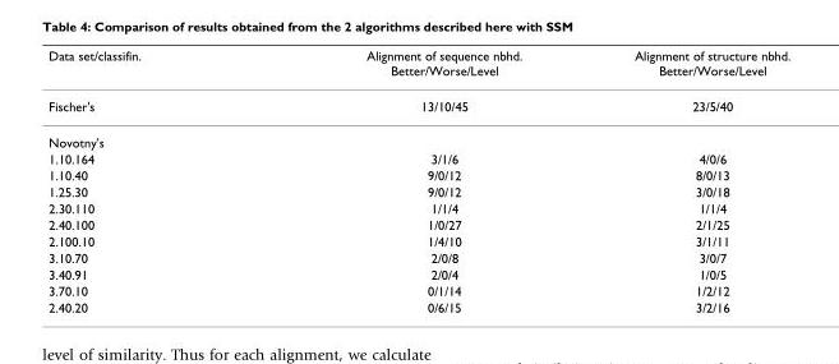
<table><thead><tr><td>Data set/classifin.</td><td>Alignment of sequence nbhd. Better/Worse/Level</td><td>Alignment of structure nbhd. Better/Worse/Level</td></tr></thead><tbody><tr><td>Fischer&#x27;s</td><td>13/10/45</td><td>23/5/40</td></tr><tr><td colspan="3">Novotny&#x27;s</td></tr><tr><td>1.10.164</td><td>3/1/6</td><td>4/0/6</td></tr><tr><td>1.10.40</td><td>9/0/12</td><td>8/0/13</td></tr><tr><td>1.25.30</td><td>9/0/12</td><td>3/0/18</td></tr><tr><td>2.30.110</td><td>1/1/4</td><td>1/1/4</td></tr><tr><td>2.40.100</td><td>1/0/27</td><td>2/1/25</td></tr><tr><td>2.100.10</td><td>1/4/10</td><td>3/1/11</td></tr><tr><td>3.10.70</td><td>2/0/8</td><td>3/0/7</td></tr><tr><td>3.40.91</td><td>2/0/4</td><td>1/0/5</td></tr><tr><td>3.70.10</td><td>0/1/14</td><td>1/2/12</td></tr><tr><td>2.40.20</td><td>0/6/15</td><td>3/2/16</td></tr></tbody></table>